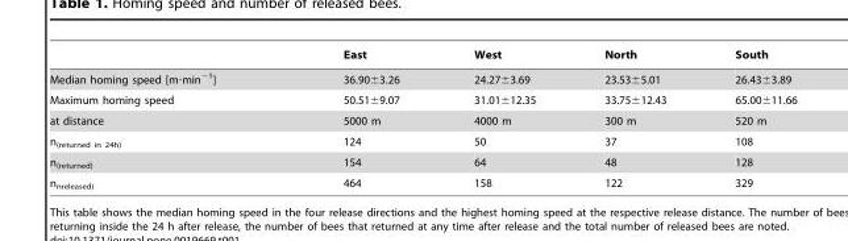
<table><thead><tr><td></td><td>East</td><td>West</td><td>North</td><td>South</td></tr></thead><tbody><tr><td>Median homing speed [m·min<sup>−1</sup>]</td><td>36.90±3.26</td><td>24.27±3.69</td><td>23.53±5.01</td><td>26.43±3.89</td></tr><tr><td>Maximum homing speed</td><td>50.51±9.07</td><td>31.01±12.35</td><td>33.75±12.43</td><td>65.00±11.66</td></tr><tr><td>at distance</td><td>5000 m</td><td>4000 m</td><td>300 m</td><td>520 m</td></tr><tr><td>n<sub>(returned in 24h)</sub></td><td>124</td><td>50</td><td>37</td><td>108</td></tr><tr><td>n<sub>(returned)</sub></td><td>154</td><td>64</td><td>48</td><td>128</td></tr><tr><td>n<sub>nreleased)</sub></td><td>464</td><td>158</td><td>122</td><td>329</td></tr></tbody></table>